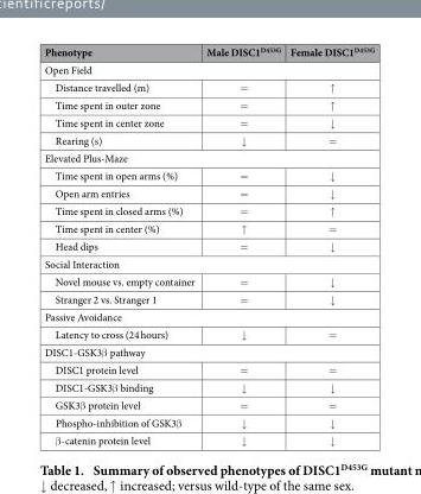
<table><thead><tr><td>Phenotype</td><td>Male DISC1<sup>D453G</sup></td><td>Female DISC1<sup>D453G</sup></td></tr></thead><tbody><tr><td colspan="3">Open Field</td></tr><tr><td>Distance travelled (m)</td><td>=</td><td>↑</td></tr><tr><td>Time spent in outer zone</td><td>=</td><td>↑</td></tr><tr><td>Time spent in center zone</td><td>=</td><td>↓</td></tr><tr><td>Rearing (s)</td><td>↓</td><td>=</td></tr><tr><td colspan="3">Elevated Plus-Maze</td></tr><tr><td>Time spent in open arms (%)</td><td>=</td><td>↓</td></tr><tr><td>Open arm entries</td><td>=</td><td>↓</td></tr><tr><td>Time spent in closed arms (%)</td><td>=</td><td>↑</td></tr><tr><td>Time spent in center (%)</td><td>↑</td><td>=</td></tr><tr><td>Head dips</td><td>=</td><td>↓</td></tr><tr><td colspan="3">Social Interaction</td></tr><tr><td>Novel mouse vs. empty container</td><td>=</td><td>↓</td></tr><tr><td>Stranger 2 vs. Stranger 1</td><td>=</td><td>↓</td></tr><tr><td colspan="3">Passive Avoidance</td></tr><tr><td>Latency to cross (24 hours)</td><td>↓</td><td>=</td></tr><tr><td colspan="3">DISC1-GSK3β pathway</td></tr><tr><td>DISC1 protein level</td><td>=</td><td>=</td></tr><tr><td>DISC1-GSK3β binding</td><td>↓</td><td>↓</td></tr><tr><td>GSK3β protein level</td><td>=</td><td>=</td></tr><tr><td>Phospho-inhibition of GSK3β</td><td>↓</td><td>↓</td></tr><tr><td>β -catenin protein level</td><td>↓</td><td>↓</td></tr></tbody></table>